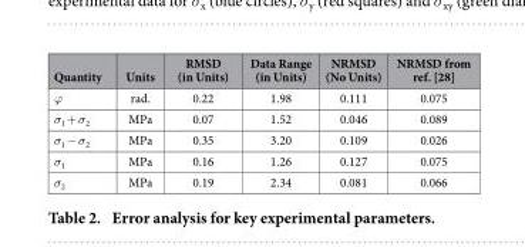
<table><thead><tr><td>Quantity</td><td>Units</td><td>RMSD (in Units)</td><td>Data Range (in Units)</td><td>NRMSD (No Units)</td><td>NRMSD from ref. [28]</td></tr></thead><tbody><tr><td>ϕ</td><td>rad.</td><td>0.22</td><td>1.98</td><td>0.111</td><td>0.075</td></tr><tr><td>σ <sub>1</sub> + σ <sub>2</sub></td><td>MPa</td><td>0.07</td><td>1.52</td><td>0.046</td><td>0.089</td></tr><tr><td>σ<sub>1</sub> − σ<sub>2</sub></td><td>MPa</td><td>0.35</td><td>3.20</td><td>0.109</td><td>0.026</td></tr><tr><td>σ<sub>1</sub></td><td>MPa</td><td>0.16</td><td>1.26</td><td>0.127</td><td>0.075</td></tr><tr><td>σ<sub>2</sub></td><td>MPa</td><td>0.19</td><td>2.34</td><td>0.081</td><td>0.066</td></tr></tbody></table>